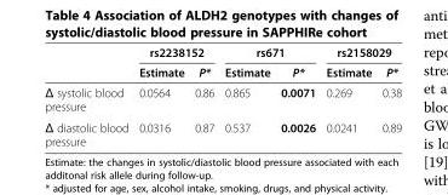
<table><thead><tr><td rowspan="2"></td><td colspan="2">rs2238152</td><td colspan="2">rs671</td><td colspan="2">rs2158029</td></tr><tr><td>Estimate</td><td>P*</td><td>Estimate</td><td>P*</td><td>Estimate</td><td>P*</td></tr></thead><tbody><tr><td>Δ systolic blood pressure</td><td>0.0564</td><td>0.86</td><td>0.865</td><td>0.0071</td><td>0.269</td><td>0.38</td></tr><tr><td>Δ diastolic blood pressure</td><td>0.0316</td><td>0.87</td><td>0.537</td><td>0.0026</td><td>0.0241</td><td>0.89</td></tr></tbody></table>